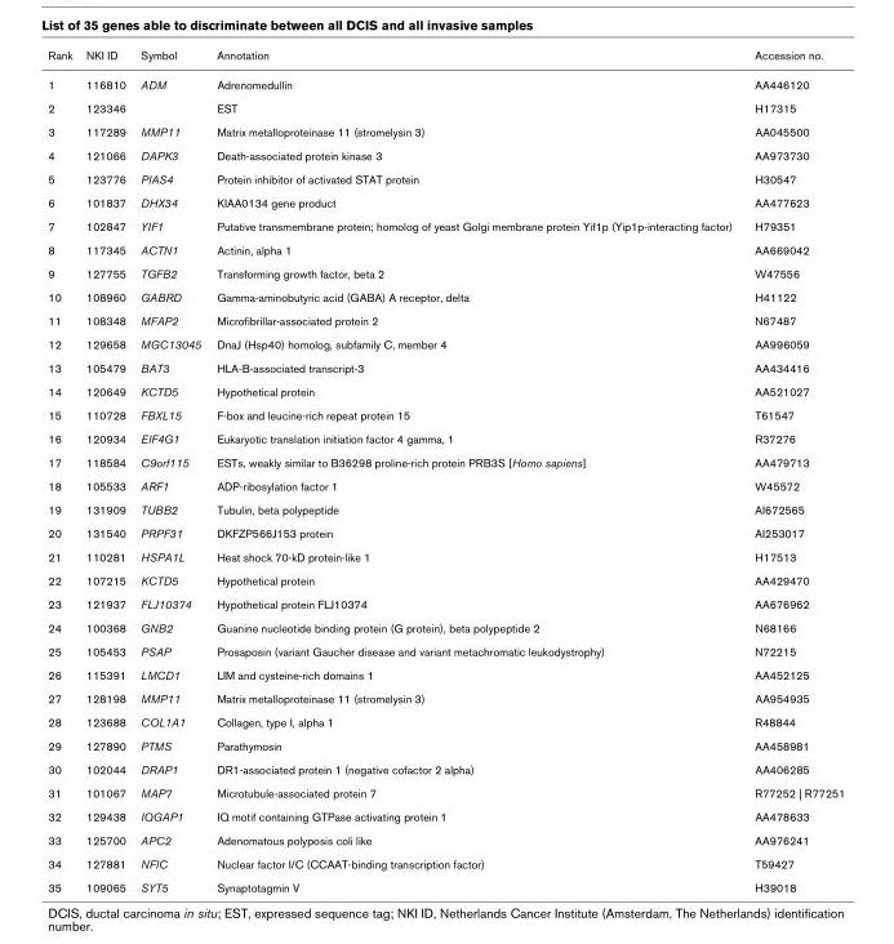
<table><thead><tr><td>Rank</td><td>NKI ID</td><td>Symbol</td><td>Annotation</td><td>Accession no.</td></tr></thead><tbody><tr><td>1</td><td>116810</td><td>ADM</td><td>Adrenomedullin</td><td>AA446120</td></tr><tr><td>2</td><td>123346</td><td></td><td>EST</td><td>H17315</td></tr><tr><td>3</td><td>117289</td><td>MMP11</td><td>Matrix metalloproteinase 11 (stromelysin 3)</td><td>AA045500</td></tr><tr><td>4</td><td>121066</td><td>DAPK3</td><td>Death-associated protein kinase 3</td><td>AA973730</td></tr><tr><td>5</td><td>123776</td><td>PIAS4</td><td>Protein inhibitor of activated STAT protein</td><td>H30547</td></tr><tr><td>6</td><td>101837</td><td>DHX34</td><td>KIAA0134 gene product</td><td>AA477623</td></tr><tr><td>7</td><td>102847</td><td>YIF1</td><td>Putative transmembrane protein; homolog of yeast Golgi membrane protein Yif1p (Yip1p-interacting factor)</td><td>H79351</td></tr><tr><td>8</td><td>117345</td><td>ACTN1</td><td>Actinin, alpha 1</td><td>AA669042</td></tr><tr><td>9</td><td>127755</td><td>TGFB2</td><td>Transforming growth factor, beta 2</td><td>W47556</td></tr><tr><td>10</td><td>108960</td><td>GABRD</td><td>Gamma-aminobutyric acid (GABA) A receptor, delta</td><td>H41122</td></tr><tr><td>11</td><td>108348</td><td>MFAP2</td><td>Microfibrillar-associated protein 2</td><td>N67487</td></tr><tr><td>12</td><td>129658</td><td>MGC13045</td><td>DnaJ (Hsp40) homolog, subfamily C, member 4</td><td>AA996059</td></tr><tr><td>13</td><td>105479</td><td>BAT3</td><td>HLA-B-associated transcript-3</td><td>AA434416</td></tr><tr><td>14</td><td>120649</td><td>KCTD5</td><td>Hypothetical protein</td><td>AA521027</td></tr><tr><td>15</td><td>110728</td><td>FBXL15</td><td>F-box and leucine-rich repeat protein 15</td><td>T61547</td></tr><tr><td>16</td><td>120934</td><td>EIF4G1</td><td>Eukaryotic translation initiation factor 4 gamma, 1</td><td>R37276</td></tr><tr><td>17</td><td>118584</td><td>C9orf115</td><td>ESTs, weakly similar to B36298 proline-rich protein PRB3S [Homo sapiens]</td><td>AA479713</td></tr><tr><td>18</td><td>105533</td><td>ARF1</td><td>ADP-ribosylation factor 1</td><td>W45572</td></tr><tr><td>19</td><td>131909</td><td>TUBB2</td><td>Tubulin, beta polypeptide</td><td>AI672565</td></tr><tr><td>20</td><td>131540</td><td>PRPF31</td><td>DKFZP566J153 protein</td><td>AI253017</td></tr><tr><td>21</td><td>110281</td><td>HSPA1L</td><td>Heat shock 70-kD protein-like 1</td><td>H17513</td></tr><tr><td>22</td><td>107215</td><td>KCTD5</td><td>Hypothetical protein</td><td>AA429470</td></tr><tr><td>23</td><td>121937</td><td>FLJ10374</td><td>Hypothetical protein FLJ10374</td><td>AA676962</td></tr><tr><td>24</td><td>100368</td><td>GNB2</td><td>Guanine nucleotide binding protein (G protein), beta polypeptide 2</td><td>N68166</td></tr><tr><td>25</td><td>105453</td><td>PSAP</td><td>Prosaposin (variant Gaucher disease and variant metachromatic leukodystrophy)</td><td>N72215</td></tr><tr><td>26</td><td>115391</td><td>LMCD1</td><td>LIM and cysteine-rich domains 1</td><td>AA452125</td></tr><tr><td>27</td><td>128198</td><td>MMP11</td><td>Matrix metalloproteinase 11 (stromelysin 3)</td><td>AA954935</td></tr><tr><td>28</td><td>123688</td><td>COL1A1</td><td>Collagen, type I, alpha 1</td><td>R48844</td></tr><tr><td>29</td><td>127890</td><td>PTMS</td><td>Parathymosin</td><td>AA458981</td></tr><tr><td>30</td><td>102044</td><td>DRAP1</td><td>DR1-associated protein 1 (negative cofactor 2 alpha)</td><td>AA406285</td></tr><tr><td>31</td><td>101067</td><td>MAP7</td><td>Microtubule-associated protein 7</td><td>R77252 | R77251</td></tr><tr><td>32</td><td>129438</td><td>IQGAP1</td><td>IQ motif containing GTPase activating protein 1</td><td>AA478633</td></tr><tr><td>33</td><td>125700</td><td>APC2</td><td>Adenomatous polyposis coli like</td><td>AA976241</td></tr><tr><td>34</td><td>127881</td><td>NFIC</td><td>Nuclear factor I/C (CCAAT-binding transcription factor)</td><td>T59427</td></tr><tr><td>35</td><td>109065</td><td>SYT5</td><td>Synaptotagmin V</td><td>H39018</td></tr></tbody></table>